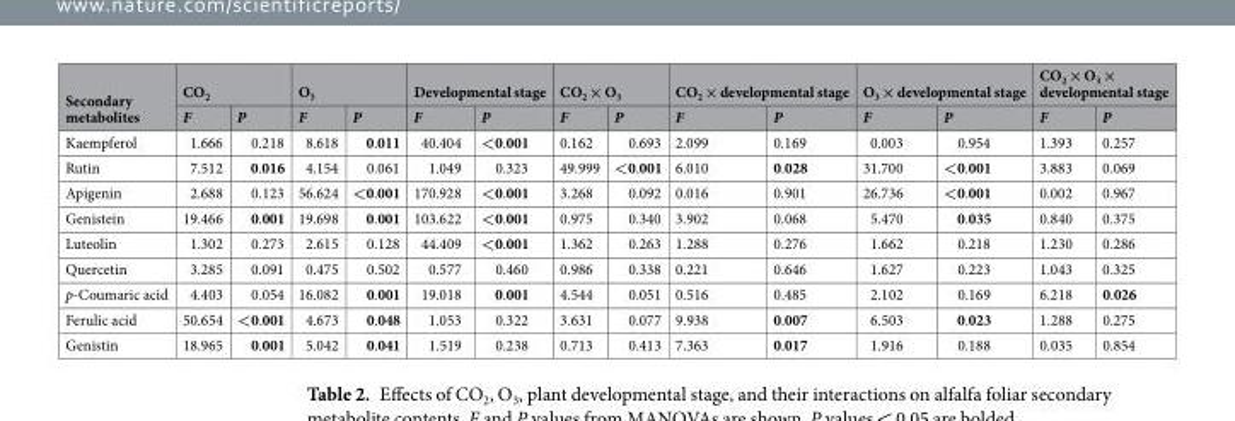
<table><thead><tr><td rowspan="2">Secondary metabolites</td><td colspan="2">CO<sub>2</sub></td><td colspan="2">O<sub>3</sub></td><td colspan="2">Developmental stage</td><td colspan="2">CO<sub>2</sub> × O<sub>3</sub></td><td colspan="2">CO<sub>2</sub> × developmental stage</td><td colspan="2">O<sub>3</sub> × developmental stage</td><td colspan="2">CO<sub>2</sub> × O<sub>3</sub> × developmental stage</td></tr><tr><td>F</td><td>P</td><td>F</td><td>P</td><td>F</td><td>P</td><td>F</td><td>P</td><td>F</td><td>P</td><td>F</td><td>P</td><td>F</td><td>P</td></tr></thead><tbody><tr><td>Kaempferol</td><td>1.666</td><td>0.218</td><td>8.618</td><td>0.011</td><td>40.404</td><td>&lt;0.001</td><td>0.162</td><td>0.693</td><td>2.099</td><td>0.169</td><td>0.003</td><td>0.954</td><td>1.393</td><td>0.257</td></tr><tr><td>Rutin</td><td>7.512</td><td>0.016</td><td>4.154</td><td>0.061</td><td>1.049</td><td>0.323</td><td>49.999</td><td>&lt;0.001</td><td>6.010</td><td>0.028</td><td>31.700</td><td>&lt;0.001</td><td>3.883</td><td>0.069</td></tr><tr><td>Apigenin</td><td>2.688</td><td>0.123</td><td>56.624</td><td>&lt;0.001</td><td>170.928</td><td>&lt;0.001</td><td>3.268</td><td>0.092</td><td>0.016</td><td>0.901</td><td>26.736</td><td>&lt;0.001</td><td>0.002</td><td>0.967</td></tr><tr><td>Genistein</td><td>19.466</td><td>0.001</td><td>19.698</td><td>0.001</td><td>103.622</td><td>&lt;0.001</td><td>0.975</td><td>0.340</td><td>3.902</td><td>0.068</td><td>5.470</td><td>0.035</td><td>0.840</td><td>0.375</td></tr><tr><td>Luteolin</td><td>1.302</td><td>0.273</td><td>2.615</td><td>0.128</td><td>44.409</td><td>&lt;0.001</td><td>1.362</td><td>0.263</td><td>1.288</td><td>0.276</td><td>1.662</td><td>0.218</td><td>1.230</td><td>0.286</td></tr><tr><td>Quercetin</td><td>3.285</td><td>0.091</td><td>0.475</td><td>0.502</td><td>0.577</td><td>0.460</td><td>0.986</td><td>0.338</td><td>0.221</td><td>0.646</td><td>1.627</td><td>0.223</td><td>1.043</td><td>0.325</td></tr><tr><td>p-Coumaric acid</td><td>4.403</td><td>0.054</td><td>16.082</td><td>0.001</td><td>19.018</td><td>0.001</td><td>4.544</td><td>0.051</td><td>0.516</td><td>0.485</td><td>2.102</td><td>0.169</td><td>6.218</td><td>0.026</td></tr><tr><td>Ferulic acid</td><td>50.654</td><td>&lt;0.001</td><td>4.673</td><td>0.048</td><td>1.053</td><td>0.322</td><td>3.631</td><td>0.077</td><td>9.938</td><td>0.007</td><td>6.503</td><td>0.023</td><td>1.288</td><td>0.275</td></tr><tr><td>Genistin</td><td>18.965</td><td>0.001</td><td>5.042</td><td>0.041</td><td>1.519</td><td>0.238</td><td>0.713</td><td>0.413</td><td>7.363</td><td>0.017</td><td>1.916</td><td>0.188</td><td>0.035</td><td>0.854</td></tr></tbody></table>